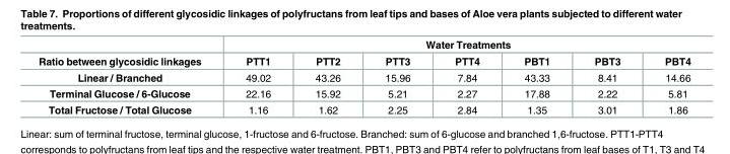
<table><thead><tr><td rowspan="2">Ratio between glycosidic linkages</td><td colspan="7">Water Treatments</td></tr><tr><td>PTT1</td><td>PTT2</td><td>PTT3</td><td>PTT4</td><td>PBT1</td><td>PBT3</td><td>PBT4</td></tr></thead><tbody><tr><td>Linear / Branched</td><td>49.02</td><td>43.26</td><td>15.96</td><td>7.84</td><td>43.33</td><td>8.41</td><td>14.66</td></tr><tr><td>Terminal Glucose / 6-Glucose</td><td>22.16</td><td>15.92</td><td>5.21</td><td>2.27</td><td>17.88</td><td>2.22</td><td>5.81</td></tr><tr><td>Total Fructose / Total Glucose</td><td>1.16</td><td>1.62</td><td>2.25</td><td>2.84</td><td>1.35</td><td>3.01</td><td>1.86</td></tr></tbody></table>